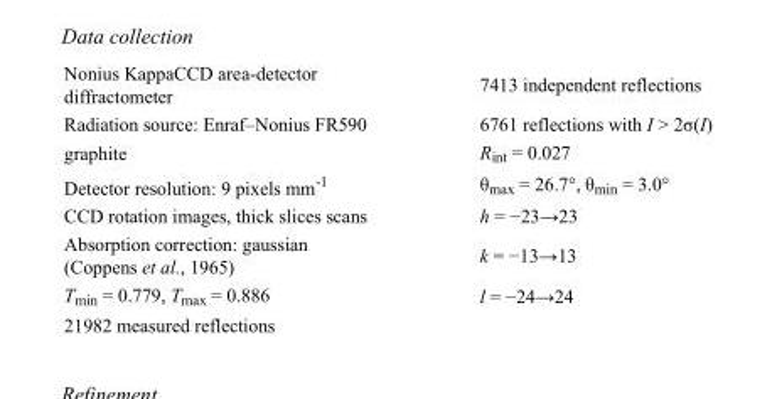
<table><tbody><tr><td>Nonius KappaCCD area-detector diffractometer</td><td>7413 independent reflections</td></tr><tr><td>Radiation source: Enraf–Nonius FR590</td><td>6761 reflections with I &gt; 2σ(I)</td></tr><tr><td>graphite</td><td>R<sub>int</sub> = 0.027</td></tr><tr><td>Detector resolution: 9 pixels mm<sup>-1</sup></td><td>θ<sub>max</sub> = 26.7°, θ<sub>min</sub> = 3.0°</td></tr><tr><td>CCD rotation images, thick slices scans</td><td>h = −23→23</td></tr><tr><td>Absorption correction: gaussian (Coppens et al., 1965)</td><td>k = −13→13</td></tr><tr><td>T<sub>min</sub> = 0.779, T<sub>max</sub> = 0.886</td><td>l = −24→24</td></tr><tr><td>21982 measured reflections</td><td></td></tr></tbody></table>